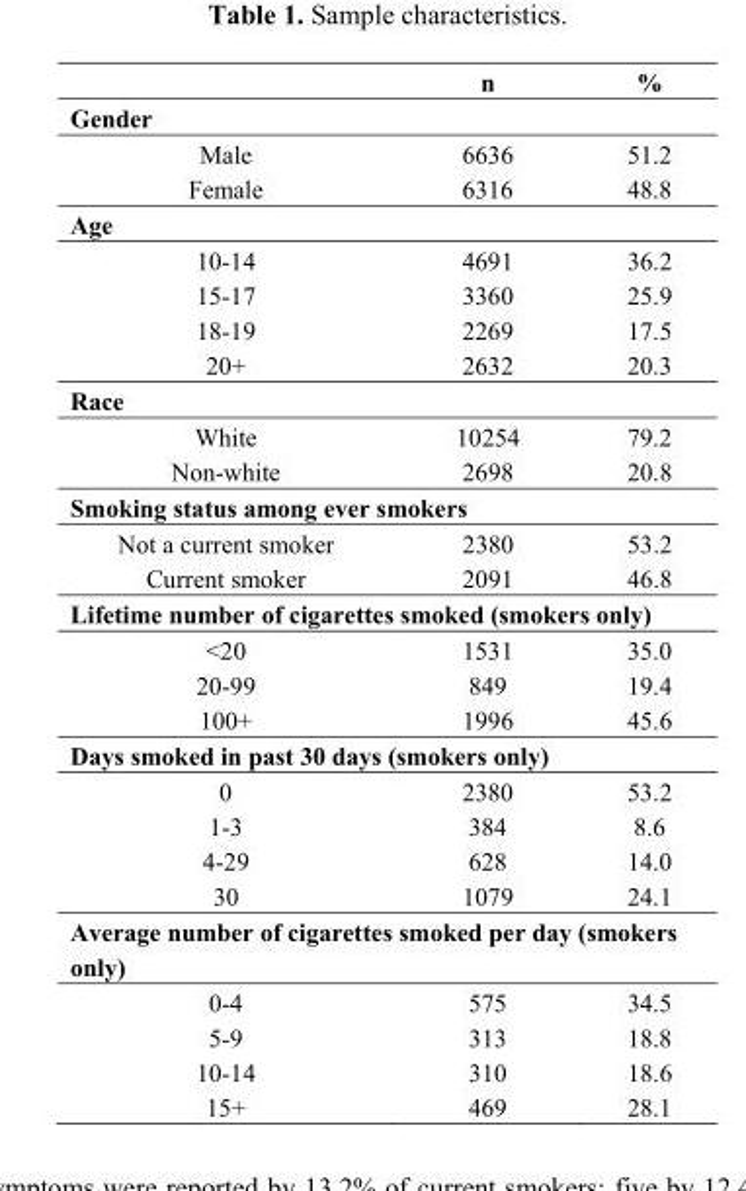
<table><thead><tr><td></td><td>n</td><td>%</td></tr></thead><tbody><tr><td colspan="3">Gender</td></tr><tr><td>Male</td><td>6636</td><td>51.2</td></tr><tr><td>Female</td><td>6316</td><td>48.8</td></tr><tr><td colspan="3">Age</td></tr><tr><td>10-14</td><td>4691</td><td>36.2</td></tr><tr><td>15-17</td><td>3360</td><td>25.9</td></tr><tr><td>18-19</td><td>2269</td><td>17.5</td></tr><tr><td>20+</td><td>2632</td><td>20.3</td></tr><tr><td colspan="3">Race</td></tr><tr><td>White</td><td>10254</td><td>79.2</td></tr><tr><td>Non-white</td><td>2698</td><td>20.8</td></tr><tr><td colspan="3">Smoking status among ever smokers</td></tr><tr><td>Not a current smoker</td><td>2380</td><td>53.2</td></tr><tr><td>Current smoker</td><td>2091</td><td>46.8</td></tr><tr><td colspan="3">Lifetime number of cigarettes smoked (smokers only)</td></tr><tr><td>&lt;20</td><td>1531</td><td>35.0</td></tr><tr><td>20-99</td><td>849</td><td>19.4</td></tr><tr><td>100+</td><td>1996</td><td>45.6</td></tr><tr><td colspan="3">Days smoked in past 30 days (smokers only)</td></tr><tr><td>0</td><td>2380</td><td>53.2</td></tr><tr><td>1-3</td><td>384</td><td>8.6</td></tr><tr><td>4-29</td><td>628</td><td>14.0</td></tr><tr><td>30</td><td>1079</td><td>24.1</td></tr><tr><td colspan="3">Average number of cigarettes smoked per day (smokers only)</td></tr><tr><td>0-4</td><td>575</td><td>34.5</td></tr><tr><td>5-9</td><td>313</td><td>18.8</td></tr><tr><td>10-14</td><td>310</td><td>18.6</td></tr><tr><td>15+</td><td>469</td><td>28.1</td></tr></tbody></table>